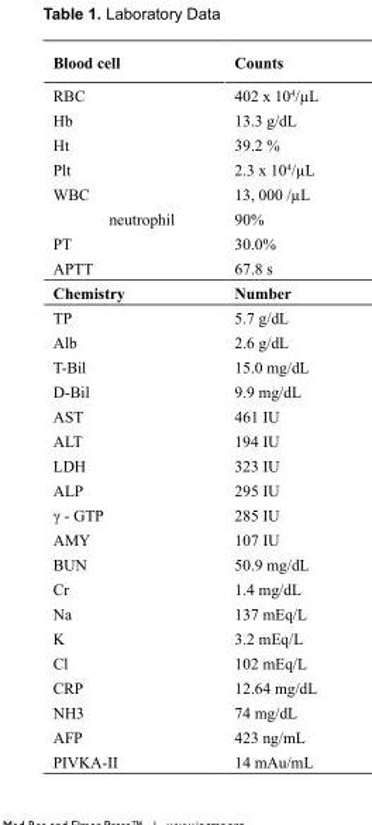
<table><thead><tr><td>Blood cell</td><td>Counts</td></tr></thead><tbody><tr><td>RBC</td><td>402 x 10<sup>4</sup>/µL</td></tr><tr><td>Hb</td><td>13.3 g/dL</td></tr><tr><td>Ht</td><td>39.2 %</td></tr><tr><td>Plt</td><td>2.3 x 10<sup>4</sup>/µL</td></tr><tr><td>WBC</td><td>13, 000 /µL</td></tr><tr><td>neutrophil</td><td>90%</td></tr><tr><td>PT</td><td>30.0%</td></tr><tr><td>APTT</td><td>67.8 s</td></tr><tr><td>Chemistry</td><td>Number</td></tr><tr><td>TP</td><td>5.7 g/dL</td></tr><tr><td>Alb</td><td>2.6 g/dL</td></tr><tr><td>T-Bil</td><td>15.0 mg/dL</td></tr><tr><td>D-Bil</td><td>9.9 mg/dL</td></tr><tr><td>AST</td><td>461 IU</td></tr><tr><td>ALT</td><td>194 IU</td></tr><tr><td>LDH</td><td>323 IU</td></tr><tr><td>ALP</td><td>295 IU</td></tr><tr><td>γ - GTP</td><td>285 IU</td></tr><tr><td>AMY</td><td>107 IU</td></tr><tr><td>BUN</td><td>50.9 mg/dL</td></tr><tr><td>Cr</td><td>1.4 mg/dL</td></tr><tr><td>Na</td><td>137 mEq/L</td></tr><tr><td>K</td><td>3.2 mEq/L</td></tr><tr><td>Cl</td><td>102 mEq/L</td></tr><tr><td>CRP</td><td>12.64 mg/dL</td></tr><tr><td>NH3</td><td>74 mg/dL</td></tr><tr><td>AFP</td><td>423 ng/mL</td></tr><tr><td>PIVKA-II</td><td>14 mAu/mL</td></tr></tbody></table>